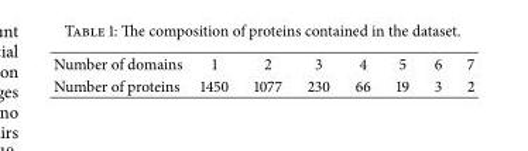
<table><tbody><tr><td>Number of domains</td><td>1</td><td>2</td><td>3</td><td>4</td><td>5</td><td>6</td><td>7</td></tr><tr><td>Number of proteins</td><td>1450</td><td>1077</td><td>230</td><td>66</td><td>19</td><td>3</td><td>2</td></tr></tbody></table>